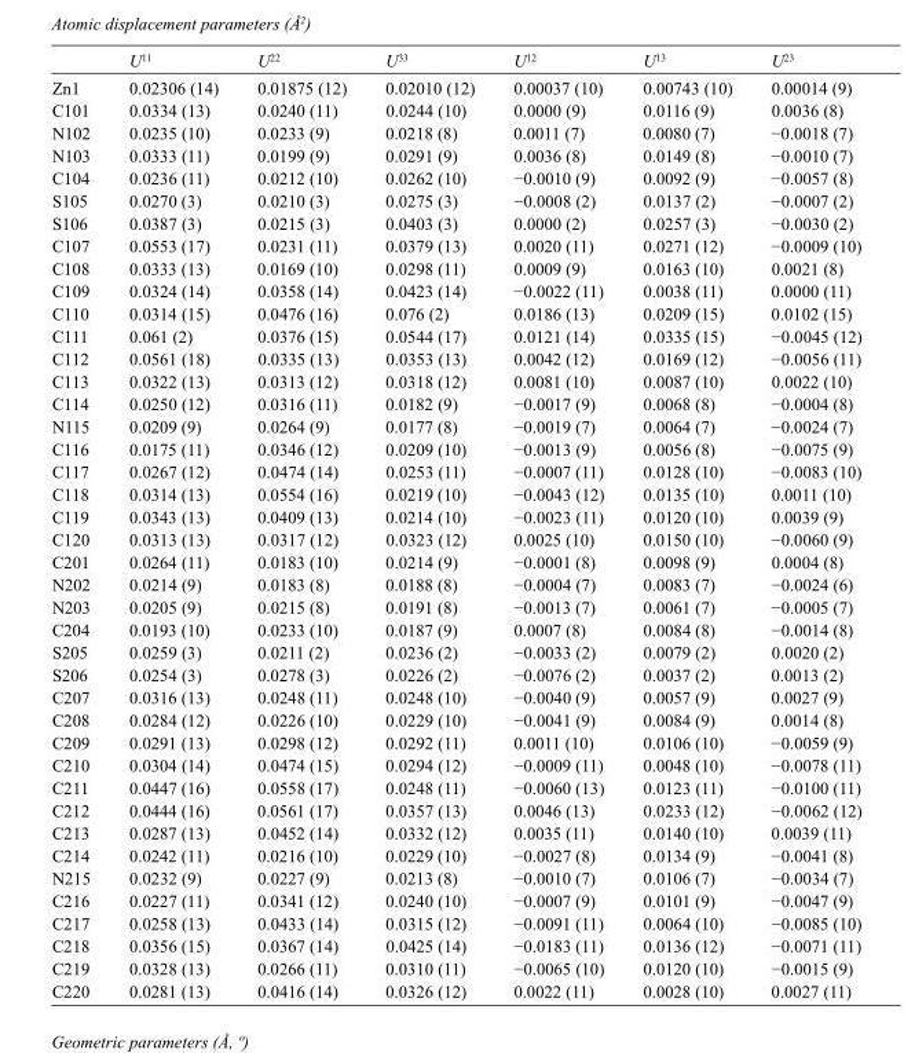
<table><thead><tr><td></td><td>U<sup>11</sup></td><td>U<sup>22</sup></td><td>U<sup>33</sup></td><td>U<sup>12</sup></td><td>U<sup>13</sup></td><td>U<sup>23</sup></td></tr></thead><tbody><tr><td>Zn1</td><td>0.02306 (14)</td><td>0.01875 (12)</td><td>0.02010 (12)</td><td>0.00037 (10)</td><td>0.00743 (10)</td><td>0.00014 (9)</td></tr><tr><td>C101</td><td>0.0334 (13)</td><td>0.0240 (11)</td><td>0.0244 (10)</td><td>0.0000 (9)</td><td>0.0116 (9)</td><td>0.0036 (8)</td></tr><tr><td>N102</td><td>0.0235 (10)</td><td>0.0233 (9)</td><td>0.0218 (8)</td><td>0.0011 (7)</td><td>0.0080 (7)</td><td>−0.0018 (7)</td></tr><tr><td>N103</td><td>0.0333 (11)</td><td>0.0199 (9)</td><td>0.0291 (9)</td><td>0.0036 (8)</td><td>0.0149 (8)</td><td>−0.0010 (7)</td></tr><tr><td>C104</td><td>0.0236 (11)</td><td>0.0212 (10)</td><td>0.0262 (10)</td><td>−0.0010 (9)</td><td>0.0092 (9)</td><td>−0.0057 (8)</td></tr><tr><td>S105</td><td>0.0270 (3)</td><td>0.0210 (3)</td><td>0.0275 (3)</td><td>−0.0008 (2)</td><td>0.0137 (2)</td><td>−0.0007 (2)</td></tr><tr><td>S106</td><td>0.0387 (3)</td><td>0.0215 (3)</td><td>0.0403 (3)</td><td>0.0000 (2)</td><td>0.0257 (3)</td><td>−0.0030 (2)</td></tr><tr><td>C107</td><td>0.0553 (17)</td><td>0.0231 (11)</td><td>0.0379 (13)</td><td>0.0020 (11)</td><td>0.0271 (12)</td><td>−0.0009 (10)</td></tr><tr><td>C108</td><td>0.0333 (13)</td><td>0.0169 (10)</td><td>0.0298 (11)</td><td>0.0009 (9)</td><td>0.0163 (10)</td><td>0.0021 (8)</td></tr><tr><td>C109</td><td>0.0324 (14)</td><td>0.0358 (14)</td><td>0.0423 (14)</td><td>−0.0022 (11)</td><td>0.0038 (11)</td><td>0.0000 (11)</td></tr><tr><td>C110</td><td>0.0314 (15)</td><td>0.0476 (16)</td><td>0.076 (2)</td><td>0.0186 (13)</td><td>0.0209 (15)</td><td>0.0102 (15)</td></tr><tr><td>C111</td><td>0.061 (2)</td><td>0.0376 (15)</td><td>0.0544 (17)</td><td>0.0121 (14)</td><td>0.0335 (15)</td><td>−0.0045 (12)</td></tr><tr><td>C112</td><td>0.0561 (18)</td><td>0.0335 (13)</td><td>0.0353 (13)</td><td>0.0042 (12)</td><td>0.0169 (12)</td><td>−0.0056 (11)</td></tr><tr><td>C113</td><td>0.0322 (13)</td><td>0.0313 (12)</td><td>0.0318 (12)</td><td>0.0081 (10)</td><td>0.0087 (10)</td><td>0.0022 (10)</td></tr><tr><td>C114</td><td>0.0250 (12)</td><td>0.0316 (11)</td><td>0.0182 (9)</td><td>−0.0017 (9)</td><td>0.0068 (8)</td><td>−0.0004 (8)</td></tr><tr><td>N115</td><td>0.0209 (9)</td><td>0.0264 (9)</td><td>0.0177 (8)</td><td>−0.0019 (7)</td><td>0.0064 (7)</td><td>−0.0024 (7)</td></tr><tr><td>C116</td><td>0.0175 (11)</td><td>0.0346 (12)</td><td>0.0209 (10)</td><td>−0.0013 (9)</td><td>0.0056 (8)</td><td>−0.0075 (9)</td></tr><tr><td>C117</td><td>0.0267 (12)</td><td>0.0474 (14)</td><td>0.0253 (11)</td><td>−0.0007 (11)</td><td>0.0128 (10)</td><td>−0.0083 (10)</td></tr><tr><td>C118</td><td>0.0314 (13)</td><td>0.0554 (16)</td><td>0.0219 (10)</td><td>−0.0043 (12)</td><td>0.0135 (10)</td><td>0.0011 (10)</td></tr><tr><td>C119</td><td>0.0343 (13)</td><td>0.0409 (13)</td><td>0.0214 (10)</td><td>−0.0023 (11)</td><td>0.0120 (10)</td><td>0.0039 (9)</td></tr><tr><td>C120</td><td>0.0313 (13)</td><td>0.0317 (12)</td><td>0.0323 (12)</td><td>0.0025 (10)</td><td>0.0150 (10)</td><td>−0.0060 (9)</td></tr><tr><td>C201</td><td>0.0264 (11)</td><td>0.0183 (10)</td><td>0.0214 (9)</td><td>−0.0001 (8)</td><td>0.0098 (9)</td><td>0.0004 (8)</td></tr><tr><td>N202</td><td>0.0214 (9)</td><td>0.0183 (8)</td><td>0.0188 (8)</td><td>−0.0004 (7)</td><td>0.0083 (7)</td><td>−0.0024 (6)</td></tr><tr><td>N203</td><td>0.0205 (9)</td><td>0.0215 (8)</td><td>0.0191 (8)</td><td>−0.0013 (7)</td><td>0.0061 (7)</td><td>−0.0005 (7)</td></tr><tr><td>C204</td><td>0.0193 (10)</td><td>0.0233 (10)</td><td>0.0187 (9)</td><td>0.0007 (8)</td><td>0.0084 (8)</td><td>−0.0014 (8)</td></tr><tr><td>S205</td><td>0.0259 (3)</td><td>0.0211 (2)</td><td>0.0236 (2)</td><td>−0.0033 (2)</td><td>0.0079 (2)</td><td>0.0020 (2)</td></tr><tr><td>S206</td><td>0.0254 (3)</td><td>0.0278 (3)</td><td>0.0226 (2)</td><td>−0.0076 (2)</td><td>0.0037 (2)</td><td>0.0013 (2)</td></tr><tr><td>C207</td><td>0.0316 (13)</td><td>0.0248 (11)</td><td>0.0248 (10)</td><td>−0.0040 (9)</td><td>0.0057 (9)</td><td>0.0027 (9)</td></tr><tr><td>C208</td><td>0.0284 (12)</td><td>0.0226 (10)</td><td>0.0229 (10)</td><td>−0.0041 (9)</td><td>0.0084 (9)</td><td>0.0014 (8)</td></tr><tr><td>C209</td><td>0.0291 (13)</td><td>0.0298 (12)</td><td>0.0292 (11)</td><td>0.0011 (10)</td><td>0.0106 (10)</td><td>−0.0059 (9)</td></tr><tr><td>C210</td><td>0.0304 (14)</td><td>0.0474 (15)</td><td>0.0294 (12)</td><td>−0.0009 (11)</td><td>0.0048 (10)</td><td>−0.0078 (11)</td></tr><tr><td>C211</td><td>0.0447 (16)</td><td>0.0558 (17)</td><td>0.0248 (11)</td><td>−0.0060 (13)</td><td>0.0123 (11)</td><td>−0.0100 (11)</td></tr><tr><td>C212</td><td>0.0444 (16)</td><td>0.0561 (17)</td><td>0.0357 (13)</td><td>0.0046 (13)</td><td>0.0233 (12)</td><td>−0.0062 (12)</td></tr><tr><td>C213</td><td>0.0287 (13)</td><td>0.0452 (14)</td><td>0.0332 (12)</td><td>0.0035 (11)</td><td>0.0140 (10)</td><td>0.0039 (11)</td></tr><tr><td>C214</td><td>0.0242 (11)</td><td>0.0216 (10)</td><td>0.0229 (10)</td><td>−0.0027 (8)</td><td>0.0134 (9)</td><td>−0.0041 (8)</td></tr><tr><td>N215</td><td>0.0232 (9)</td><td>0.0227 (9)</td><td>0.0213 (8)</td><td>−0.0010 (7)</td><td>0.0106 (7)</td><td>−0.0034 (7)</td></tr><tr><td>C216</td><td>0.0227 (11)</td><td>0.0341 (12)</td><td>0.0240 (10)</td><td>−0.0007 (9)</td><td>0.0101 (9)</td><td>−0.0047 (9)</td></tr><tr><td>C217</td><td>0.0258 (13)</td><td>0.0433 (14)</td><td>0.0315 (12)</td><td>−0.0091 (11)</td><td>0.0064 (10)</td><td>−0.0085 (10)</td></tr><tr><td>C218</td><td>0.0356 (15)</td><td>0.0367 (14)</td><td>0.0425 (14)</td><td>−0.0183 (11)</td><td>0.0136 (12)</td><td>−0.0071 (11)</td></tr><tr><td>C219</td><td>0.0328 (13)</td><td>0.0266 (11)</td><td>0.0310 (11)</td><td>−0.0065 (10)</td><td>0.0120 (10)</td><td>−0.0015 (9)</td></tr><tr><td>C220</td><td>0.0281 (13)</td><td>0.0416 (14)</td><td>0.0326 (12)</td><td>0.0022 (11)</td><td>0.0028 (10)</td><td>0.0027 (11)</td></tr></tbody></table>